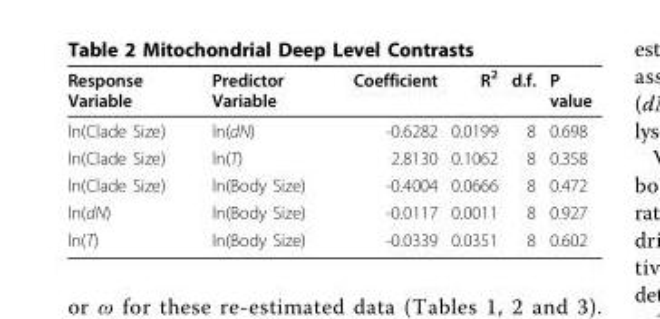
<table><thead><tr><td>Response Variable</td><td>Predictor Variable</td><td>Coefficient</td><td>R<sup>2</sup></td><td>d.f.</td><td>P value</td></tr></thead><tbody><tr><td>ln(Clade Size)</td><td>ln(dN)</td><td>-0.6282</td><td>0.0199</td><td>8</td><td>0.698</td></tr><tr><td>ln(Clade Size)</td><td>ln(T)</td><td>2.8130</td><td>0.1062</td><td>8</td><td>0.358</td></tr><tr><td>ln(Clade Size)</td><td>ln(Body Size)</td><td>-0.4004</td><td>0.0666</td><td>8</td><td>0.472</td></tr><tr><td>ln(dN)</td><td>ln(Body Size)</td><td>-0.0117</td><td>0.0011</td><td>8</td><td>0.927</td></tr><tr><td>ln(T)</td><td>ln(Body Size)</td><td>-0.0339</td><td>0.0351</td><td>8</td><td>0.602</td></tr></tbody></table>